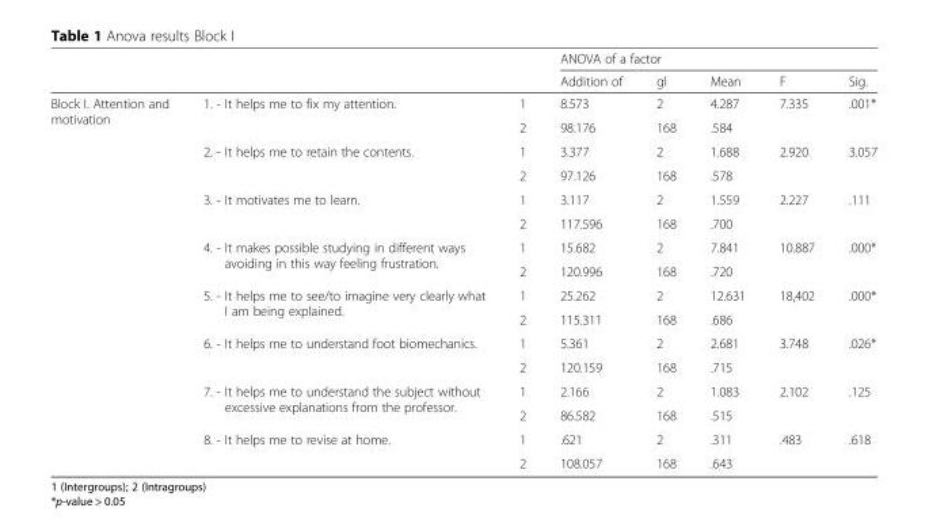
<table><thead><tr><td rowspan="2"></td><td rowspan="2"></td><td rowspan="2"></td><td colspan="5">ANOVA of a factor</td></tr><tr><td>Addition of</td><td>gl</td><td>Mean</td><td>F</td><td>Sig.</td></tr></thead><tbody><tr><td rowspan="16">Block I. Attention and motivation</td><td rowspan="2">1. - It helps me to fix my attention.</td><td>1</td><td>8.573</td><td>2</td><td>4.287</td><td>7.335</td><td>.001*</td></tr><tr><td>2</td><td>98.176</td><td>168</td><td>.584</td><td></td><td></td></tr><tr><td rowspan="2">2. - It helps me to retain the contents.</td><td>1</td><td>3.377</td><td>2</td><td>1.688</td><td>2.920</td><td>3.057</td></tr><tr><td>2</td><td>97.126</td><td>168</td><td>.578</td><td></td><td></td></tr><tr><td rowspan="2">3. - It motivates me to learn.</td><td>1</td><td>3.117</td><td>2</td><td>1.559</td><td>2.227</td><td>.111</td></tr><tr><td>2</td><td>117.596</td><td>168</td><td>.700</td><td></td><td></td></tr><tr><td rowspan="2">4. - It makes possible studying in different ways avoiding in this way feeling frustration.</td><td>1</td><td>15.682</td><td>2</td><td>7.841</td><td>10.887</td><td>.000*</td></tr><tr><td>2</td><td>120.996</td><td>168</td><td>.720</td><td></td><td></td></tr><tr><td rowspan="2">5. - It helps me to see/to imagine very clearly what I am being explained.</td><td>1</td><td>25.262</td><td>2</td><td>12.631</td><td>18,402</td><td>.000*</td></tr><tr><td>2</td><td>115.311</td><td>168</td><td>.686</td><td></td><td></td></tr><tr><td rowspan="2">6. - It helps me to understand foot biomechanics.</td><td>1</td><td>5.361</td><td>2</td><td>2.681</td><td>3.748</td><td>.026*</td></tr><tr><td>2</td><td>120.159</td><td>168</td><td>.715</td><td></td><td></td></tr><tr><td rowspan="2">7. - It helps me to understand the subject without excessive explanations from the professor.</td><td>1</td><td>2.166</td><td>2</td><td>1.083</td><td>2.102</td><td>.125</td></tr><tr><td>2</td><td>86.582</td><td>168</td><td>.515</td><td></td><td></td></tr><tr><td rowspan="2">8. - It helps me to revise at home.</td><td>1</td><td>.621</td><td>2</td><td>.311</td><td>.483</td><td>.618</td></tr><tr><td>2</td><td>108.057</td><td>168</td><td>.643</td><td></td><td></td></tr></tbody></table>